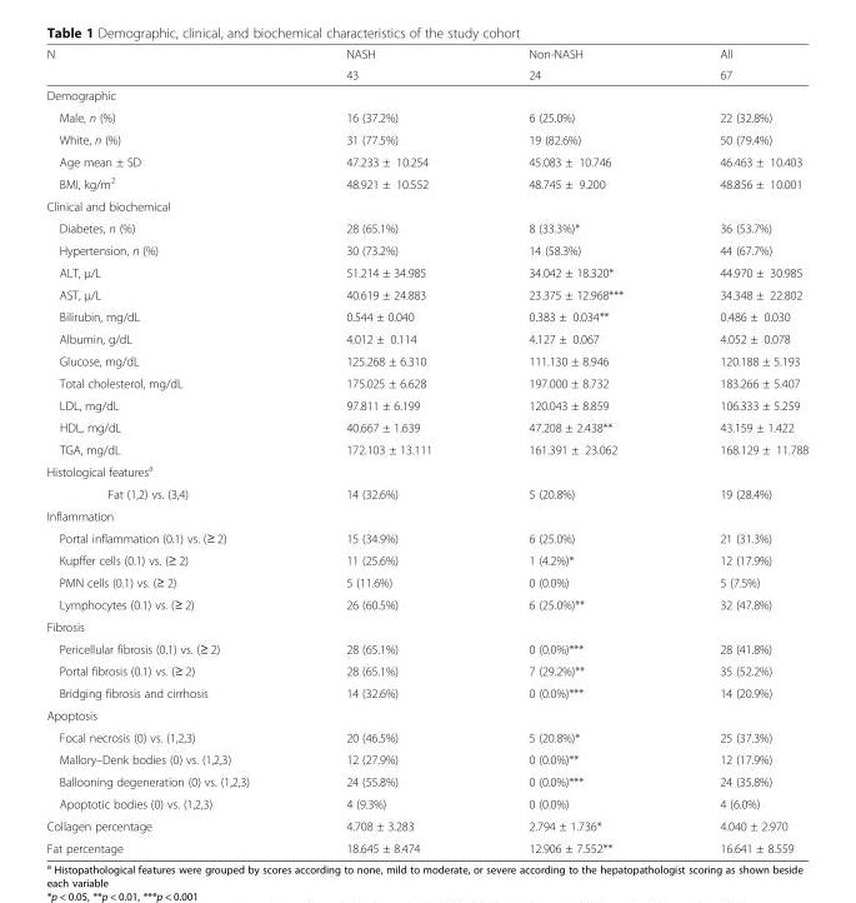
<table><thead><tr><td rowspan="2">N</td><td rowspan="2">NASH 43</td><td rowspan="2">Non-NASH 24</td><td rowspan="2">All 67</td></tr><tr></tr></thead><tbody><tr><td colspan="4">Demographic</td></tr><tr><td>Male, n (%)</td><td>16 (37.2%)</td><td>6 (25.0%)</td><td>22 (32.8%)</td></tr><tr><td>White, n (%)</td><td>31 (77.5%)</td><td>19 (82.6%)</td><td>50 (79.4%)</td></tr><tr><td>Age mean ± SD</td><td>47.233 ± 10.254</td><td>45.083 ± 10.746</td><td>46.463 ± 10.403</td></tr><tr><td>BMI, kg/m<sup>2</sup></td><td>48.921 ± 10.552</td><td>48.745 ± 9.200</td><td>48.856 ± 10.001</td></tr><tr><td colspan="4">Clinical and biochemical</td></tr><tr><td>Diabetes, n (%)</td><td>28 (65.1%)</td><td>8 (33.3%)*</td><td>36 (53.7%)</td></tr><tr><td>Hypertension, n (%)</td><td>30 (73.2%)</td><td>14 (58.3%)</td><td>44 (67.7%)</td></tr><tr><td>ALT, μ/L</td><td>51.214 ± 34.985</td><td>34.042 ± 18.320*</td><td>44.970 ± 30.985</td></tr><tr><td>AST, μ/L</td><td>40.619 ± 24.883</td><td>23.375 ± 12.968***</td><td>34.348 ± 22.802</td></tr><tr><td>Bilirubin, mg/dL</td><td>0.544 ± 0.040</td><td>0.383 ± 0.034**</td><td>0.486 ± 0.030</td></tr><tr><td>Albumin, g/dL</td><td>4.012 ± 0.114</td><td>4.127 ± 0.067</td><td>4.052 ± 0.078</td></tr><tr><td>Glucose, mg/dL</td><td>125.268 ± 6.310</td><td>111.130 ± 8.946</td><td>120.188 ± 5.193</td></tr><tr><td>Total cholesterol, mg/dL</td><td>175.025 ± 6.628</td><td>197.000 ± 8.732</td><td>183.266 ± 5.407</td></tr><tr><td>LDL, mg/dL</td><td>97.811 ± 6.199</td><td>120.043 ± 8.859</td><td>106.333 ± 5.259</td></tr><tr><td>HDL, mg/dL</td><td>40.667 ± 1.639</td><td>47.208 ± 2.438**</td><td>43.159 ± 1.422</td></tr><tr><td>TGA, mg/dL</td><td>172.103 ± 13.111</td><td>161.391 ± 23.062</td><td>168.129 ± 11.788</td></tr><tr><td colspan="4">Histological features<sup>a</sup></td></tr><tr><td>Fat (1,2) vs. (3,4)</td><td>14 (32.6%)</td><td>5 (20.8%)</td><td>19 (28.4%)</td></tr><tr><td colspan="4">Inflammation</td></tr><tr><td>Portal inflammation (0.1) vs. (≥ 2)</td><td>15 (34.9%)</td><td>6 (25.0%)</td><td>21 (31.3%)</td></tr><tr><td>Kupffer cells (0.1) vs. (≥ 2)</td><td>11 (25.6%)</td><td>1 (4.2%)*</td><td>12 (17.9%)</td></tr><tr><td>PMN cells (0.1) vs. (≥ 2)</td><td>5 (11.6%)</td><td>0 (0.0%)</td><td>5 (7.5%)</td></tr><tr><td>Lymphocytes (0.1) vs. (≥ 2)</td><td>26 (60.5%)</td><td>6 (25.0%)**</td><td>32 (47.8%)</td></tr><tr><td colspan="4">Fibrosis</td></tr><tr><td>Pericellular fibrosis (0.1) vs. (≥ 2)</td><td>28 (65.1%)</td><td>0 (0.0%)***</td><td>28 (41.8%)</td></tr><tr><td>Portal fibrosis (0.1) vs. (≥ 2)</td><td>28 (65.1%)</td><td>7 (29.2%)**</td><td>35 (52.2%)</td></tr><tr><td>Bridging fibrosis and cirrhosis</td><td>14 (32.6%)</td><td>0 (0.0%)***</td><td>14 (20.9%)</td></tr><tr><td colspan="4">Apoptosis</td></tr><tr><td>Focal necrosis (0) vs. (1,2,3)</td><td>20 (46.5%)</td><td>5 (20.8%)*</td><td>25 (37.3%)</td></tr><tr><td>Mallory–Denk bodies (0) vs. (1,2,3)</td><td>12 (27.9%)</td><td>0 (0.0%)**</td><td>12 (17.9%)</td></tr><tr><td>Ballooning degeneration (0) vs. (1,2,3)</td><td>24 (55.8%)</td><td>0 (0.0%)***</td><td>24 (35.8%)</td></tr><tr><td>Apoptotic bodies (0) vs. (1,2,3)</td><td>4 (9.3%)</td><td>0 (0.0%)</td><td>4 (6.0%)</td></tr><tr><td>Collagen percentage</td><td>4.708 ± 3.283</td><td>2.794 ± 1.736*</td><td>4.040 ± 2.970</td></tr><tr><td>Fat percentage</td><td>18.645 ± 8.474</td><td>12.906 ± 7.552**</td><td>16.641 ± 8.559</td></tr></tbody></table>